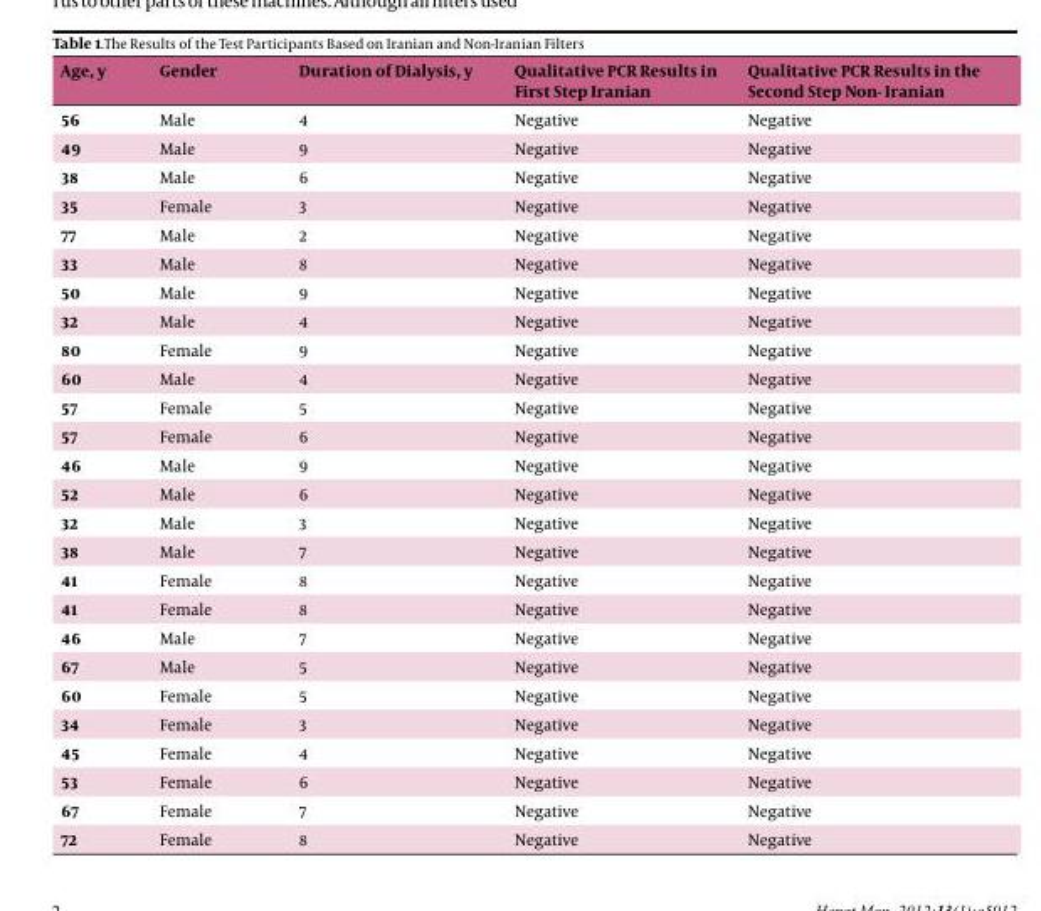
<table><thead><tr><td>Age, y</td><td>Gender</td><td>Duration of Dialysis, y</td><td>Qualitative PCR Results in First Step Iranian</td><td>Qualitative PCR Results in the Second Step Non- Iranian</td></tr></thead><tbody><tr><td>56</td><td>Male</td><td>4</td><td>Negative</td><td>Negative</td></tr><tr><td>49</td><td>Male</td><td>9</td><td>Negative</td><td>Negative</td></tr><tr><td>38</td><td>Male</td><td>6</td><td>Negative</td><td>Negative</td></tr><tr><td>35</td><td>Female</td><td>3</td><td>Negative</td><td>Negative</td></tr><tr><td>77</td><td>Male</td><td>2</td><td>Negative</td><td>Negative</td></tr><tr><td>33</td><td>Male</td><td>8</td><td>Negative</td><td>Negative</td></tr><tr><td>50</td><td>Male</td><td>9</td><td>Negative</td><td>Negative</td></tr><tr><td>32</td><td>Male</td><td>4</td><td>Negative</td><td>Negative</td></tr><tr><td>80</td><td>Female</td><td>9</td><td>Negative</td><td>Negative</td></tr><tr><td>60</td><td>Male</td><td>4</td><td>Negative</td><td>Negative</td></tr><tr><td>57</td><td>Female</td><td>5</td><td>Negative</td><td>Negative</td></tr><tr><td>57</td><td>Female</td><td>6</td><td>Negative</td><td>Negative</td></tr><tr><td>46</td><td>Male</td><td>9</td><td>Negative</td><td>Negative</td></tr><tr><td>52</td><td>Male</td><td>6</td><td>Negative</td><td>Negative</td></tr><tr><td>32</td><td>Male</td><td>3</td><td>Negative</td><td>Negative</td></tr><tr><td>38</td><td>Male</td><td>7</td><td>Negative</td><td>Negative</td></tr><tr><td>41</td><td>Female</td><td>8</td><td>Negative</td><td>Negative</td></tr><tr><td>41</td><td>Female</td><td>8</td><td>Negative</td><td>Negative</td></tr><tr><td>46</td><td>Male</td><td>7</td><td>Negative</td><td>Negative</td></tr><tr><td>67</td><td>Male</td><td>5</td><td>Negative</td><td>Negative</td></tr><tr><td>60</td><td>Female</td><td>5</td><td>Negative</td><td>Negative</td></tr><tr><td>34</td><td>Female</td><td>3</td><td>Negative</td><td>Negative</td></tr><tr><td>45</td><td>Female</td><td>4</td><td>Negative</td><td>Negative</td></tr><tr><td>53</td><td>Female</td><td>6</td><td>Negative</td><td>Negative</td></tr><tr><td>67</td><td>Female</td><td>7</td><td>Negative</td><td>Negative</td></tr><tr><td>72</td><td>Female</td><td>8</td><td>Negative</td><td>Negative</td></tr></tbody></table>